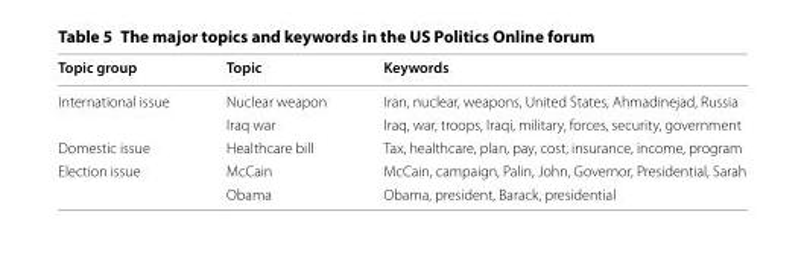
<table><thead><tr><td>Topic group</td><td>Topic</td><td>Keywords</td></tr></thead><tbody><tr><td rowspan="2">International issue</td><td>Nuclear weapon</td><td>Iran, nuclear, weapons, United States, Ahmadinejad, Russia</td></tr><tr><td>Iraq war</td><td>Iraq, war, troops, Iraqi, military, forces, security, government</td></tr><tr><td>Domestic issue</td><td>Healthcare bill</td><td>Tax, healthcare, plan, pay, cost, insurance, income, program</td></tr><tr><td rowspan="2">Election issue</td><td>McCain</td><td>McCain, campaign, Palin, John, Governor, Presidential, Sarah</td></tr><tr><td>Obama</td><td>Obama, president, Barack, presidential</td></tr></tbody></table>